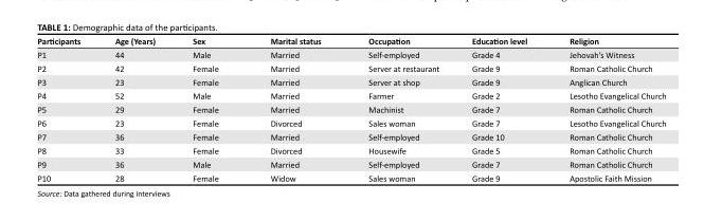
<table><thead><tr><td>Participants</td><td>Age (Years)</td><td>Sex</td><td>Marital status</td><td>Occupation</td><td>Education level</td><td>Religion</td></tr></thead><tbody><tr><td>P1</td><td>44</td><td>Male</td><td>Married</td><td>Self-employed</td><td>Grade 4</td><td>Jehovah’s Witness</td></tr><tr><td>P2</td><td>42</td><td>Female</td><td>Married</td><td>Server at restaurant</td><td>Grade 9</td><td>Roman Catholic Church</td></tr><tr><td>P3</td><td>23</td><td>Female</td><td>Married</td><td>Server at shop</td><td>Grade 9</td><td>Anglican Church</td></tr><tr><td>P4</td><td>52</td><td>Male</td><td>Married</td><td>Farmer</td><td>Grade 2</td><td>Lesotho Evangelical Church</td></tr><tr><td>P5</td><td>29</td><td>Female</td><td>Married</td><td>Machinist</td><td>Grade 7</td><td>Roman Catholic Church</td></tr><tr><td>P6</td><td>23</td><td>Female</td><td>Divorced</td><td>Sales woman</td><td>Grade 7</td><td>Lesotho Evangelical Church</td></tr><tr><td>P7</td><td>36</td><td>Female</td><td>Married</td><td>Self-employed</td><td>Grade 10</td><td>Roman Catholic Church</td></tr><tr><td>P8</td><td>33</td><td>Female</td><td>Divorced</td><td>Housewife</td><td>Grade 5</td><td>Roman Catholic Church</td></tr><tr><td>P9</td><td>36</td><td>Male</td><td>Married</td><td>Self-employed</td><td>Grade 7</td><td>Roman Catholic Church</td></tr><tr><td>P10</td><td>28</td><td>Female</td><td>Widow</td><td>Sales woman</td><td>Grade 9</td><td>Apostolic Faith Mission</td></tr></tbody></table>